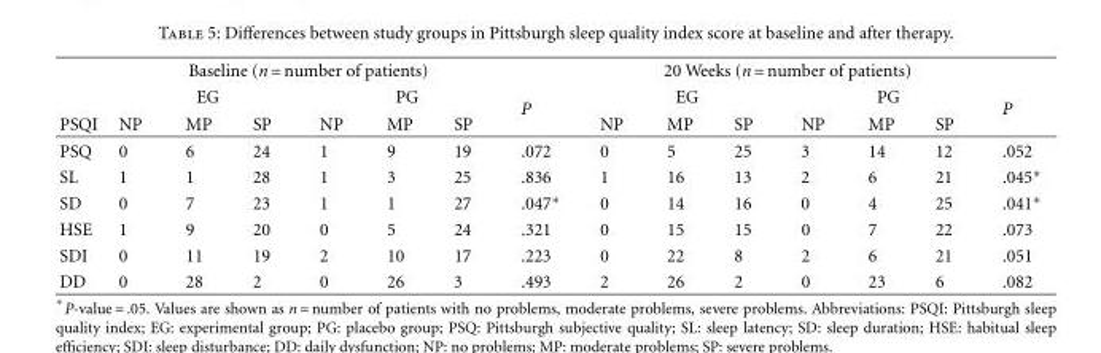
<table><thead><tr><td rowspan="3">PSQI</td><td colspan="6">Baseline (n = number of patients)</td><td rowspan="3">P</td><td colspan="6">20 Weeks (n = number of patients)</td><td rowspan="3">P</td></tr><tr><td colspan="3">EG</td><td colspan="3">PG</td><td colspan="3">EG</td><td colspan="3">PG</td></tr><tr><td>NP</td><td>MP</td><td>SP</td><td>NP</td><td>MP</td><td>SP</td><td>NP</td><td>MP</td><td>SP</td><td>NP</td><td>MP</td><td>SP</td></tr></thead><tbody><tr><td>PSQ</td><td>0</td><td>6</td><td>24</td><td>1</td><td>9</td><td>19</td><td>.072</td><td>0</td><td>5</td><td>25</td><td>3</td><td>14</td><td>12</td><td>.052</td></tr><tr><td>SL</td><td>1</td><td>1</td><td>28</td><td>1</td><td>3</td><td>25</td><td>.836</td><td>1</td><td>16</td><td>13</td><td>2</td><td>6</td><td>21</td><td>.045∗</td></tr><tr><td>SD</td><td>0</td><td>7</td><td>23</td><td>1</td><td>1</td><td>27</td><td>.047∗</td><td>0</td><td>14</td><td>16</td><td>0</td><td>4</td><td>25</td><td>.041∗</td></tr><tr><td>HSE</td><td>1</td><td>9</td><td>20</td><td>0</td><td>5</td><td>24</td><td>.321</td><td>0</td><td>15</td><td>15</td><td>0</td><td>7</td><td>22</td><td>.073</td></tr><tr><td>SDI</td><td>0</td><td>11</td><td>19</td><td>2</td><td>10</td><td>17</td><td>.223</td><td>0</td><td>22</td><td>8</td><td>2</td><td>6</td><td>21</td><td>.051</td></tr><tr><td>DD</td><td>0</td><td>28</td><td>2</td><td>0</td><td>26</td><td>3</td><td>.493</td><td>2</td><td>26</td><td>2</td><td>0</td><td>23</td><td>6</td><td>.082</td></tr></tbody></table>